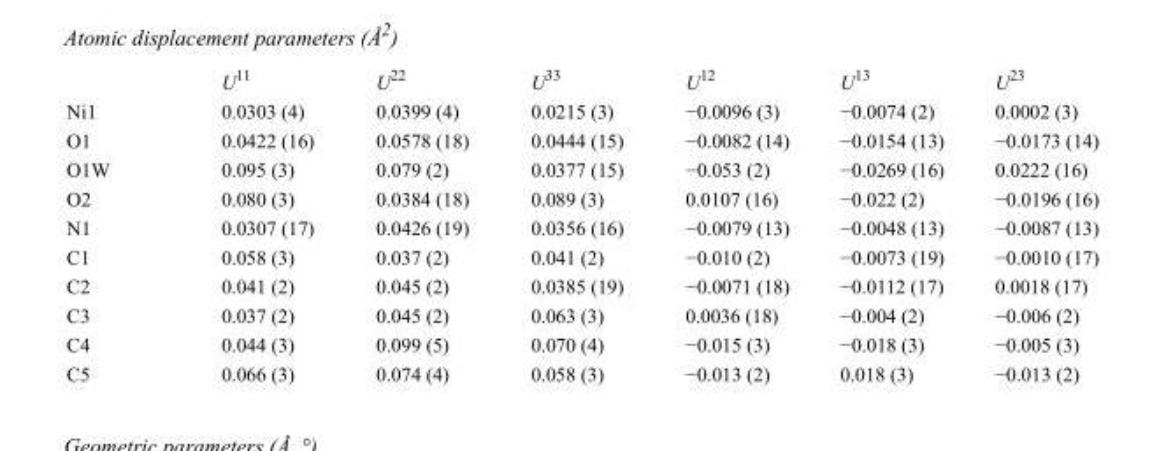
<table><thead><tr><td></td><td>U<sup>11</sup></td><td>U<sup>22</sup></td><td>U<sup>33</sup></td><td>U<sup>12</sup></td><td>U<sup>13</sup></td><td>U<sup>23</sup></td></tr></thead><tbody><tr><td>Ni1</td><td>0.0303 (4)</td><td>0.0399 (4)</td><td>0.0215 (3)</td><td>−0.0096 (3)</td><td>−0.0074 (2)</td><td>0.0002 (3)</td></tr><tr><td>O1</td><td>0.0422 (16)</td><td>0.0578 (18)</td><td>0.0444 (15)</td><td>−0.0082 (14)</td><td>−0.0154 (13)</td><td>−0.0173 (14)</td></tr><tr><td>O1W</td><td>0.095 (3)</td><td>0.079 (2)</td><td>0.0377 (15)</td><td>−0.053 (2)</td><td>−0.0269 (16)</td><td>0.0222 (16)</td></tr><tr><td>O2</td><td>0.080 (3)</td><td>0.0384 (18)</td><td>0.089 (3)</td><td>0.0107 (16)</td><td>−0.022 (2)</td><td>−0.0196 (16)</td></tr><tr><td>N1</td><td>0.0307 (17)</td><td>0.0426 (19)</td><td>0.0356 (16)</td><td>−0.0079 (13)</td><td>−0.0048 (13)</td><td>−0.0087 (13)</td></tr><tr><td>C1</td><td>0.058 (3)</td><td>0.037 (2)</td><td>0.041 (2)</td><td>−0.010 (2)</td><td>−0.0073 (19)</td><td>−0.0010 (17)</td></tr><tr><td>C2</td><td>0.041 (2)</td><td>0.045 (2)</td><td>0.0385 (19)</td><td>−0.0071 (18)</td><td>−0.0112 (17)</td><td>0.0018 (17)</td></tr><tr><td>C3</td><td>0.037 (2)</td><td>0.045 (2)</td><td>0.063 (3)</td><td>0.0036 (18)</td><td>−0.004 (2)</td><td>−0.006 (2)</td></tr><tr><td>C4</td><td>0.044 (3)</td><td>0.099 (5)</td><td>0.070 (4)</td><td>−0.015 (3)</td><td>−0.018 (3)</td><td>−0.005 (3)</td></tr><tr><td>C5</td><td>0.066 (3)</td><td>0.074 (4)</td><td>0.058 (3)</td><td>−0.013 (2)</td><td>0.018 (3)</td><td>−0.013 (2)</td></tr></tbody></table>